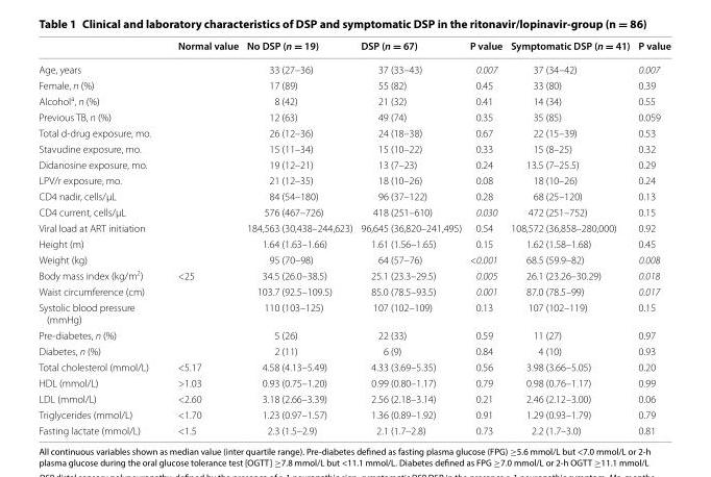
<table><thead><tr><td></td><td>Normal value</td><td>No DSP (n = 19)</td><td>DSP (n = 67)</td><td>P value</td><td>Symptomatic DSP (n = 41)</td><td>P value</td></tr></thead><tbody><tr><td>Age, years</td><td></td><td>33 (27–36)</td><td>37 (33–43)</td><td>0.007</td><td>37 (34–42)</td><td>0.007</td></tr><tr><td>Female, n (%)</td><td></td><td>17 (89)</td><td>55 (82)</td><td>0.45</td><td>33 (80)</td><td>0.39</td></tr><tr><td>Alcohol<sup>a</sup>, n (%)</td><td></td><td>8 (42)</td><td>21 (32)</td><td>0.41</td><td>14 (34)</td><td>0.55</td></tr><tr><td>Previous TB, n (%)</td><td></td><td>12 (63)</td><td>49 (74)</td><td>0.35</td><td>35 (85)</td><td>0.059</td></tr><tr><td>Total d‑drug exposure, mo.</td><td></td><td>26 (12–36)</td><td>24 (18–38)</td><td>0.67</td><td>22 (15–39)</td><td>0.53</td></tr><tr><td>Stavudine exposure, mo.</td><td></td><td>15 (11–34)</td><td>15 (10–22)</td><td>0.33</td><td>15 (8–25)</td><td>0.32</td></tr><tr><td>Didanosine exposure, mo.</td><td></td><td>19 (12–21)</td><td>13 (7–23)</td><td>0.24</td><td>13.5 (7–25.5)</td><td>0.29</td></tr><tr><td>LPV/r exposure, mo.</td><td></td><td>21 (12–35)</td><td>18 (10–26)</td><td>0.08</td><td>18 (10–26)</td><td>0.24</td></tr><tr><td>CD4 nadir, cells/µL</td><td></td><td>84 (54–180)</td><td>96 (37–122)</td><td>0.28</td><td>68 (25–120)</td><td>0.13</td></tr><tr><td>CD4 current, cells/µL</td><td></td><td>576 (467–726)</td><td>418 (251–610)</td><td>0.030</td><td>472 (251–752)</td><td>0.15</td></tr><tr><td>Viral load at ART initiation</td><td></td><td>184,563 (30,438–244,623)</td><td>96,645 (36,820–241,495)</td><td>0.54</td><td>108,572 (36,858–280,000)</td><td>0.92</td></tr><tr><td>Height (m)</td><td></td><td>1.64 (1.63–1.66)</td><td>1.61 (1.56–1.65)</td><td>0.15</td><td>1.62 (1.58–1.68)</td><td>0.45</td></tr><tr><td>Weight (kg)</td><td></td><td>95 (70–98)</td><td>64 (57–76)</td><td>&lt;0.001</td><td>68.5 (59.9–82)</td><td>0.008</td></tr><tr><td>Body mass index (kg/m<sup>2</sup>)</td><td>&lt;25</td><td>34.5 (26.0–38.5)</td><td>25.1 (23.3–29.5)</td><td>0.005</td><td>26.1 (23.26–30.29)</td><td>0.018</td></tr><tr><td>Waist circumference (cm)</td><td></td><td>103.7 (92.5–109.5)</td><td>85.0 (78.5–93.5)</td><td>0.001</td><td>87.0 (78.5–99)</td><td>0.017</td></tr><tr><td>Systolic blood pressure (mmHg)</td><td></td><td>110 (103–125)</td><td>107 (102–109)</td><td>0.13</td><td>107 (102–119)</td><td>0.15</td></tr><tr><td>Pre‑diabetes, n (%)</td><td></td><td>5 (26)</td><td>22 (33)</td><td>0.59</td><td>11 (27)</td><td>0.97</td></tr><tr><td>Diabetes, n (%)</td><td></td><td>2 (11)</td><td>6 (9)</td><td>0.84</td><td>4 (10)</td><td>0.93</td></tr><tr><td>Total cholesterol (mmol/L)</td><td>&lt;5.17</td><td>4.58 (4.13–5.49)</td><td>4.33 (3.69–5.35)</td><td>0.56</td><td>3.98 (3.66–5.05)</td><td>0.20</td></tr><tr><td>HDL (mmol/L)</td><td>&gt;1.03</td><td>0.93 (0.75–1.20)</td><td>0.99 (0.80–1.17)</td><td>0.79</td><td>0.98 (0.76–1.17)</td><td>0.99</td></tr><tr><td>LDL (mmol/L)</td><td>&lt;2.60</td><td>3.18 (2.66–3.39)</td><td>2.56 (2.18–3.14)</td><td>0.21</td><td>2.46 (2.12–3.00)</td><td>0.06</td></tr><tr><td>Triglycerides (mmol/L)</td><td>&lt;1.70</td><td>1.23 (0.97–1.57)</td><td>1.36 (0.89–1.92)</td><td>0.91</td><td>1.29 (0.93–1.79)</td><td>0.79</td></tr><tr><td>Fasting lactate (mmol/L)</td><td>&lt;1.5</td><td>2.3 (1.5–2.9)</td><td>2.1 (1.7–2.8)</td><td>0.73</td><td>2.2 (1.7–3.0)</td><td>0.81</td></tr></tbody></table>